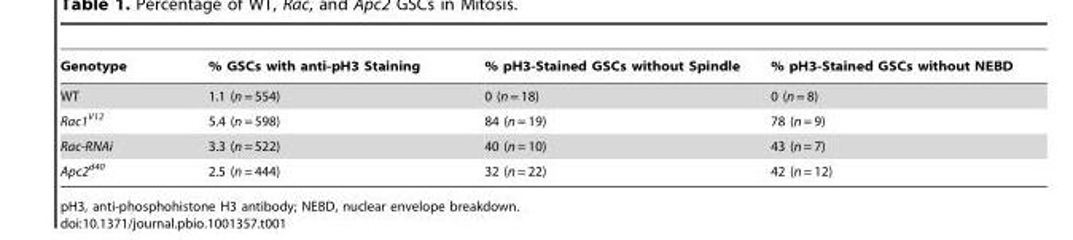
<table><thead><tr><td>Genotype</td><td>% GSCs with anti-pH3 Staining</td><td>% pH3-Stained GSCs without Spindle</td><td>% pH3-Stained GSCs without NEBD</td></tr></thead><tbody><tr><td>WT</td><td>1.1 (n = 554)</td><td>0 (n = 18)</td><td>0 (n = 8)</td></tr><tr><td>Rac1<sup>V12</sup></td><td>5.4 (n = 598)</td><td>84 (n = 19)</td><td>78 (n = 9)</td></tr><tr><td>Rac-RNAi</td><td>3.3 (n = 522)</td><td>40 (n = 10)</td><td>43 (n = 7)</td></tr><tr><td>Apc2<sup>d40</sup></td><td>2.5 (n = 444)</td><td>32 (n = 22)</td><td>42 (n = 12)</td></tr></tbody></table>